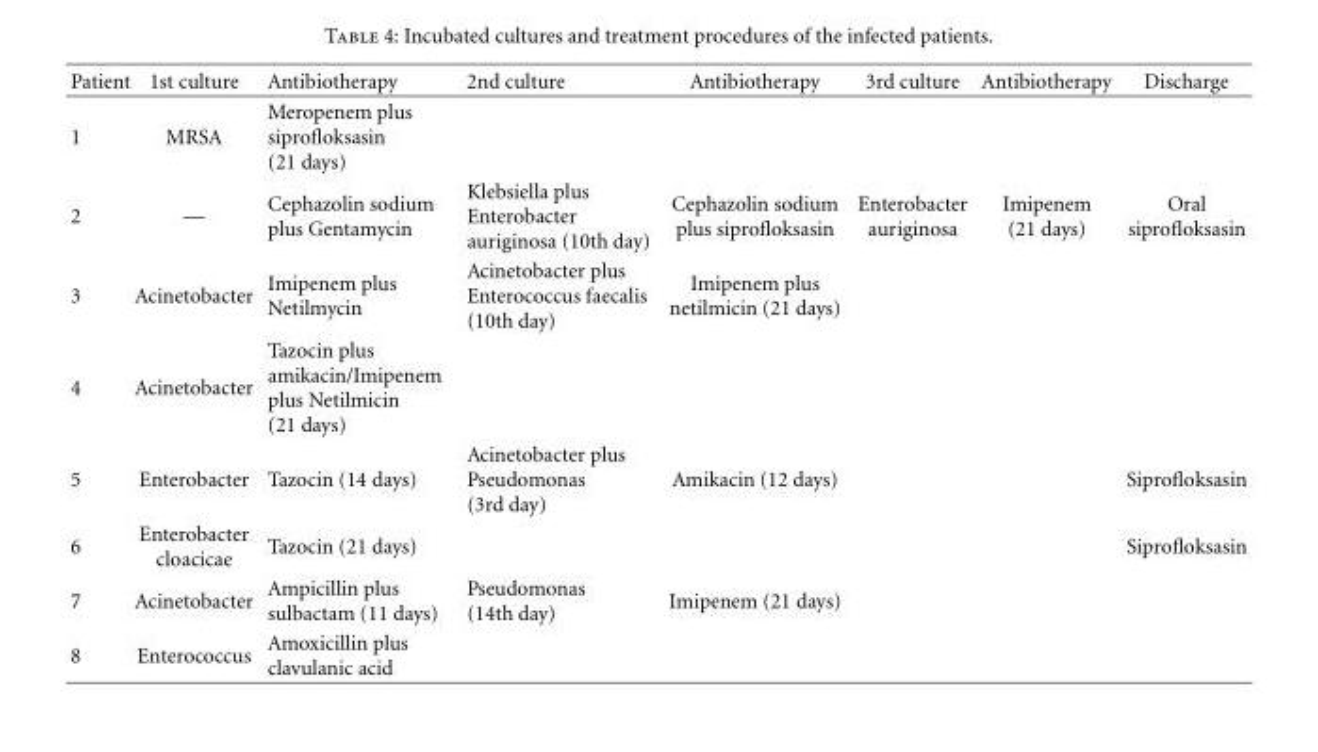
<table><thead><tr><td>Patient</td><td>1st culture</td><td>Antibiotherapy</td><td>2nd culture</td><td>Antibiotherapy</td><td>3rd culture</td><td>Antibiotherapy</td><td>Discharge</td></tr></thead><tbody><tr><td>1</td><td>MRSA</td><td>Meropenem plus siprofloksasin (21 days)</td><td></td><td></td><td></td><td></td><td></td></tr><tr><td>2</td><td>—</td><td>Cephazolin sodium plus Gentamycin</td><td>Klebsiella plus Enterobacter auriginosa (10th day)</td><td>Cephazolin sodium plus siprofloksasin</td><td>Enterobacter auriginosa</td><td>Imipenem (21 days)</td><td>Oral siprofloksasin</td></tr><tr><td>3</td><td>Acinetobacter</td><td>Imipenem plus Netilmycin</td><td>Acinetobacter plus Enterococcus faecalis (10th day)</td><td>Imipenem plus netilmicin (21 days)</td><td></td><td></td><td></td></tr><tr><td>4</td><td>Acinetobacter</td><td>Tazocin plus amikacin/Imipenem plus Netilmicin (21 days)</td><td></td><td></td><td></td><td></td><td></td></tr><tr><td>5</td><td>Enterobacter</td><td>Tazocin (14 days)</td><td>Acinetobacter plus Pseudomonas (3rd day)</td><td>Amikacin (12 days)</td><td></td><td></td><td>Siprofloksasin</td></tr><tr><td>6</td><td>Enterobacter cloacicae</td><td>Tazocin (21 days)</td><td></td><td></td><td></td><td></td><td>Siprofloksasin</td></tr><tr><td>7</td><td>Acinetobacter</td><td>Ampicillin plus sulbactam (11 days)</td><td>Pseudomonas (14th day)</td><td>Imipenem (21 days)</td><td></td><td></td><td></td></tr><tr><td>8</td><td>Enterococcus</td><td>Amoxicillin plus clavulanic acid</td><td></td><td></td><td></td><td></td><td></td></tr></tbody></table>